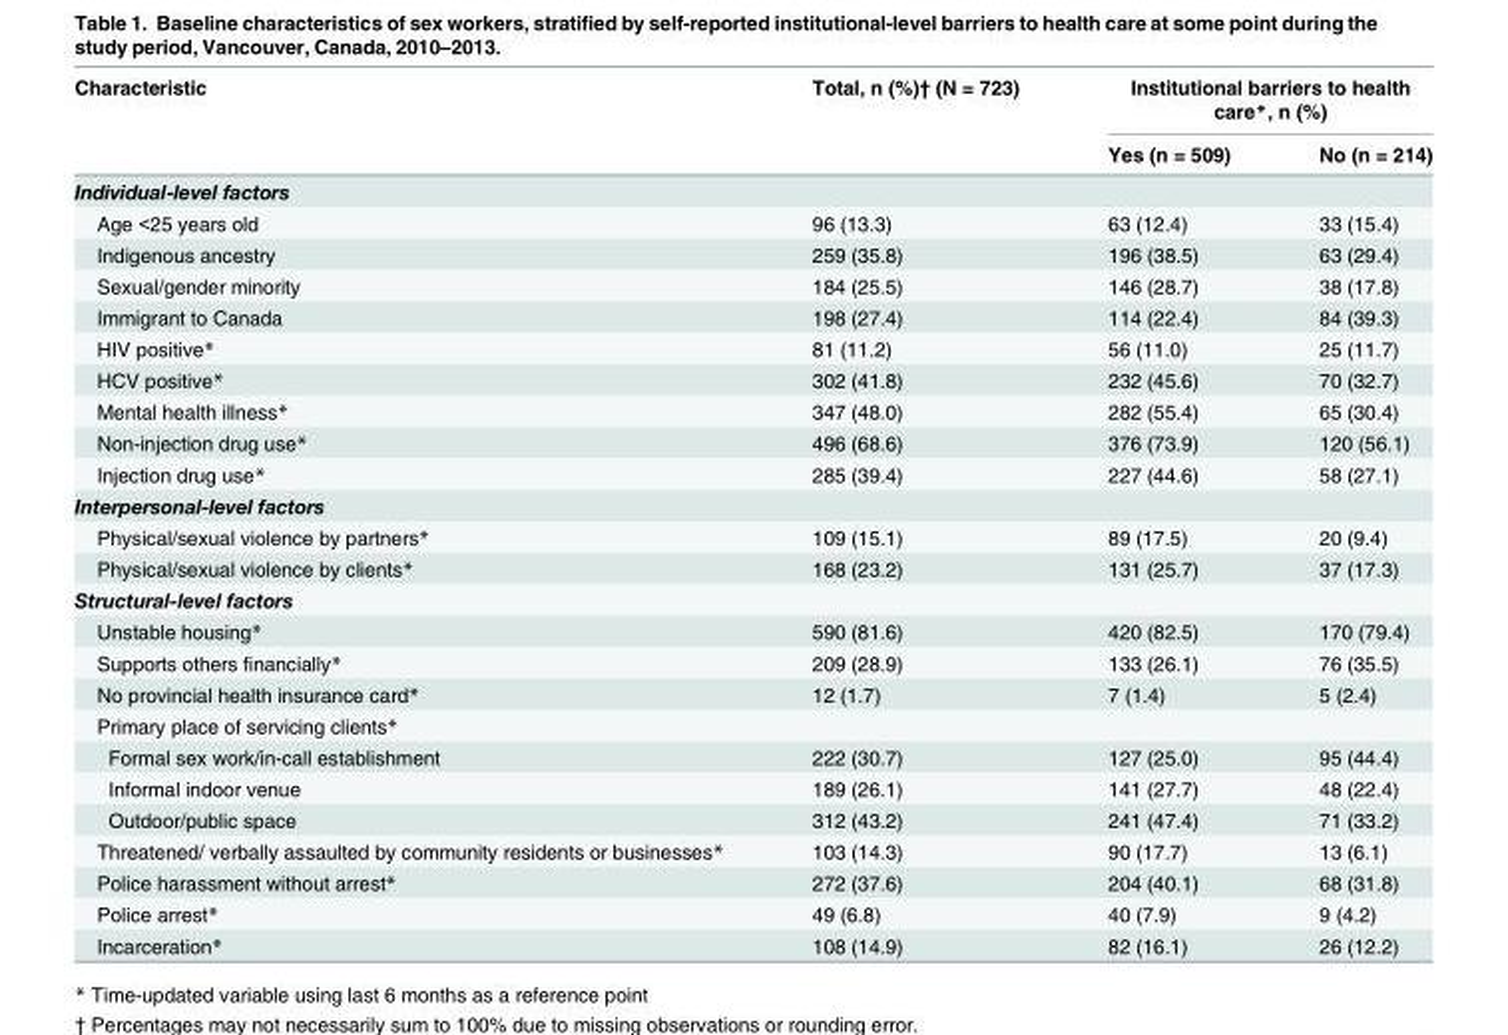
<table><thead><tr><td rowspan="2">Characteristic</td><td rowspan="2">Total, n (%)† (N = 723)</td><td colspan="2">Institutional barriers to health care*, n (%)</td></tr><tr><td>Yes (n = 509)</td><td>No (n = 214)</td></tr></thead><tbody><tr><td colspan="4">Individual-level factors</td></tr><tr><td>Age &lt;25 years old</td><td>96 (13.3)</td><td>63 (12.4)</td><td>33 (15.4)</td></tr><tr><td>Indigenous ancestry</td><td>259 (35.8)</td><td>196 (38.5)</td><td>63 (29.4)</td></tr><tr><td>Sexual/gender minority</td><td>184 (25.5)</td><td>146 (28.7)</td><td>38 (17.8)</td></tr><tr><td>Immigrant to Canada</td><td>198 (27.4)</td><td>114 (22.4)</td><td>84 (39.3)</td></tr><tr><td>HIV positive*</td><td>81 (11.2)</td><td>56 (11.0)</td><td>25 (11.7)</td></tr><tr><td>HCV positive*</td><td>302 (41.8)</td><td>232 (45.6)</td><td>70 (32.7)</td></tr><tr><td>Mental health illness*</td><td>347 (48.0)</td><td>282 (55.4)</td><td>65 (30.4)</td></tr><tr><td>Non-injection drug use*</td><td>496 (68.6)</td><td>376 (73.9)</td><td>120 (56.1)</td></tr><tr><td>Injection drug use*</td><td>285 (39.4)</td><td>227 (44.6)</td><td>58 (27.1)</td></tr><tr><td colspan="4">Interpersonal-level factors</td></tr><tr><td>Physical/sexual violence by partners*</td><td>109 (15.1)</td><td>89 (17.5)</td><td>20 (9.4)</td></tr><tr><td>Physical/sexual violence by clients*</td><td>168 (23.2)</td><td>131 (25.7)</td><td>37 (17.3)</td></tr><tr><td colspan="4">Structural-level factors</td></tr><tr><td>Unstable housing*</td><td>590 (81.6)</td><td>420 (82.5)</td><td>170 (79.4)</td></tr><tr><td>Supports others financially*</td><td>209 (28.9)</td><td>133 (26.1)</td><td>76 (35.5)</td></tr><tr><td>No provincial health insurance card*</td><td>12 (1.7)</td><td>7 (1.4)</td><td>5 (2.4)</td></tr><tr><td colspan="4">Primary place of servicing clients*</td></tr><tr><td>Formal sex work/in-call establishment</td><td>222 (30.7)</td><td>127 (25.0)</td><td>95 (44.4)</td></tr><tr><td>Informal indoor venue</td><td>189 (26.1)</td><td>141 (27.7)</td><td>48 (22.4)</td></tr><tr><td>Outdoor/public space</td><td>312 (43.2)</td><td>241 (47.4)</td><td>71 (33.2)</td></tr><tr><td>Threatened/ verbally assaulted by community residents or businesses*</td><td>103 (14.3)</td><td>90 (17.7)</td><td>13 (6.1)</td></tr><tr><td>Police harassment without arrest*</td><td>272 (37.6)</td><td>204 (40.1)</td><td>68 (31.8)</td></tr><tr><td>Police arrest*</td><td>49 (6.8)</td><td>40 (7.9)</td><td>9 (4.2)</td></tr><tr><td>Incarceration*</td><td>108 (14.9)</td><td>82 (16.1)</td><td>26 (12.2)</td></tr></tbody></table>